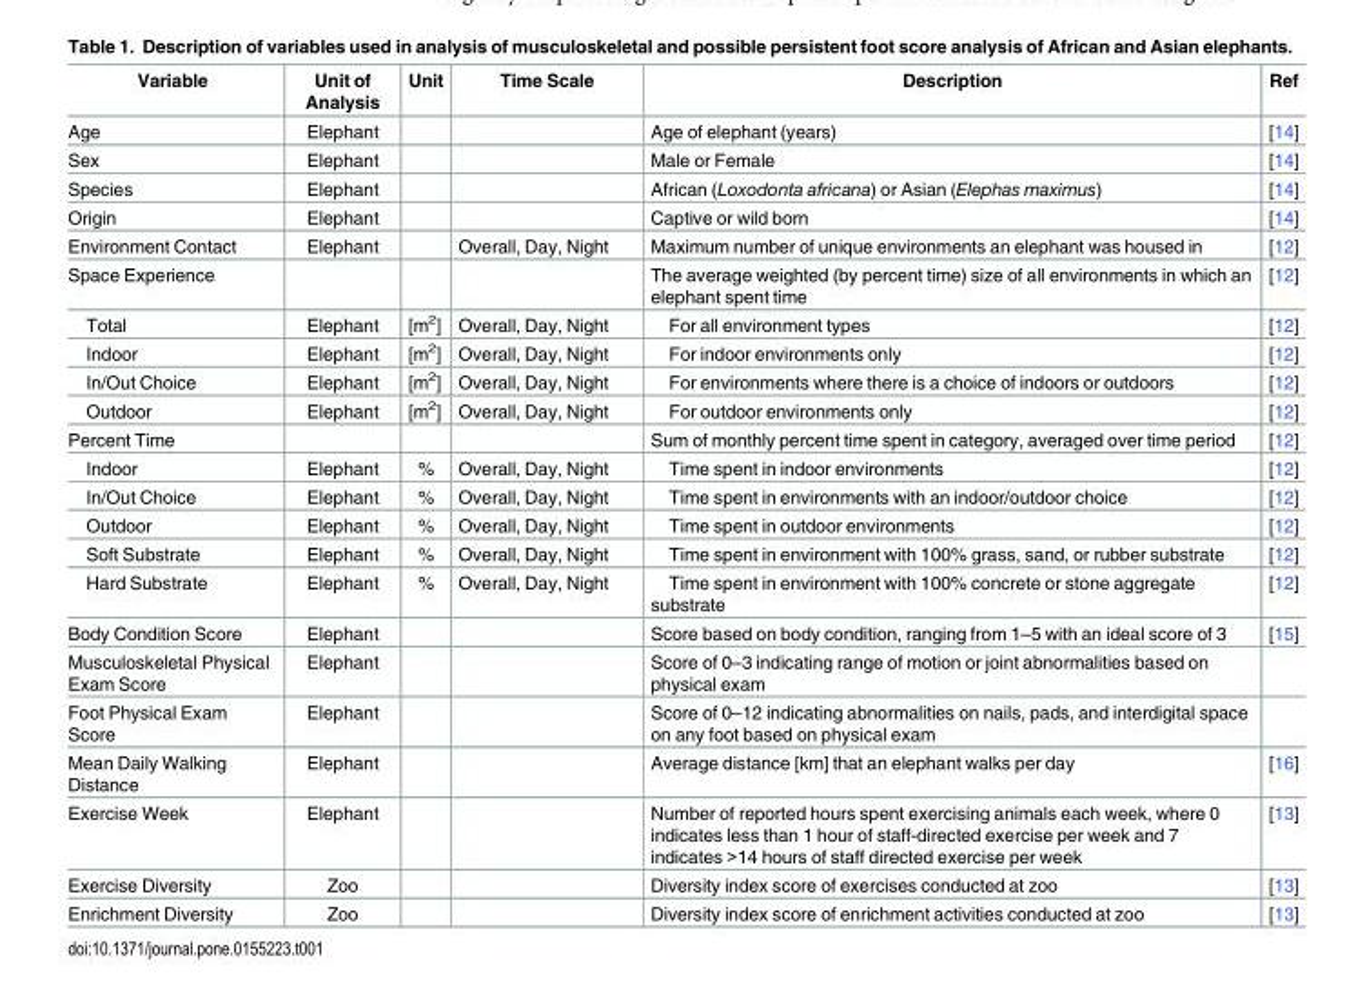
<table><thead><tr><td>Variable</td><td>Unit of Analysis</td><td>Unit</td><td>Time Scale</td><td>Description</td><td>Ref</td></tr></thead><tbody><tr><td>Age</td><td>Elephant</td><td></td><td></td><td>Age of elephant (years)</td><td>[14]</td></tr><tr><td>Sex</td><td>Elephant</td><td></td><td></td><td>Male or Female</td><td>[14]</td></tr><tr><td>Species</td><td>Elephant</td><td></td><td></td><td>African (Loxodonta africana) or Asian (Elephas maximus)</td><td>[14]</td></tr><tr><td>Origin</td><td>Elephant</td><td></td><td></td><td>Captive or wild born</td><td>[14]</td></tr><tr><td>Environment Contact</td><td>Elephant</td><td></td><td>Overall, Day, Night</td><td>Maximum number of unique environments an elephant was housed in</td><td>[12]</td></tr><tr><td>Space Experience</td><td></td><td></td><td></td><td>The average weighted (by percent time) size of all environments in which an elephant spent time</td><td>[12]</td></tr><tr><td>Total</td><td>Elephant</td><td>[m<sup>2</sup>]</td><td>Overall, Day, Night</td><td>For all environment types</td><td>[12]</td></tr><tr><td>Indoor</td><td>Elephant</td><td>[m<sup>2</sup>]</td><td>Overall, Day, Night</td><td>For indoor environments only</td><td>[12]</td></tr><tr><td>In/Out Choice</td><td>Elephant</td><td>[m<sup>2</sup>]</td><td>Overall, Day, Night</td><td>For environments where there is a choice of indoors or outdoors</td><td>[12]</td></tr><tr><td>Outdoor</td><td>Elephant</td><td>[m<sup>2</sup>]</td><td>Overall, Day, Night</td><td>For outdoor environments only</td><td>[12]</td></tr><tr><td>Percent Time</td><td></td><td></td><td></td><td>Sum of monthly percent time spent in category, averaged over time period</td><td>[12]</td></tr><tr><td>Indoor</td><td>Elephant</td><td>%</td><td>Overall, Day, Night</td><td>Time spent in indoor environments</td><td>[12]</td></tr><tr><td>In/Out Choice</td><td>Elephant</td><td>%</td><td>Overall, Day, Night</td><td>Time spent in environments with an indoor/outdoor choice</td><td>[12]</td></tr><tr><td>Outdoor</td><td>Elephant</td><td>%</td><td>Overall, Day, Night</td><td>Time spent in outdoor environments</td><td>[12]</td></tr><tr><td>Soft Substrate</td><td>Elephant</td><td>%</td><td>Overall, Day, Night</td><td>Time spent in environment with 100% grass, sand, or rubber substrate</td><td>[12]</td></tr><tr><td>Hard Substrate</td><td>Elephant</td><td>%</td><td>Overall, Day, Night</td><td>Time spent in environment with 100% concrete or stone aggregate substrate</td><td>[12]</td></tr><tr><td>Body Condition Score</td><td>Elephant</td><td></td><td></td><td>Score based on body condition, ranging from 1–5 with an ideal score of 3</td><td>[15]</td></tr><tr><td>Musculoskeletal Physical Exam Score</td><td>Elephant</td><td></td><td></td><td>Score of 0–3 indicating range of motion or joint abnormalities based on physical exam</td><td></td></tr><tr><td>Foot Physical Exam Score</td><td>Elephant</td><td></td><td></td><td>Score of 0–12 indicating abnormalities on nails, pads, and interdigital space on any foot based on physical exam</td><td></td></tr><tr><td>Mean Daily Walking Distance</td><td>Elephant</td><td></td><td></td><td>Average distance [km] that an elephant walks per day</td><td>[16]</td></tr><tr><td>Exercise Week</td><td>Elephant</td><td></td><td></td><td>Number of reported hours spent exercising animals each week, where 0 indicates less than 1 hour of staff-directed exercise per week and 7 indicates &gt;14 hours of staff directed exercise per week</td><td>[13]</td></tr><tr><td>Exercise Diversity</td><td>Zoo</td><td></td><td></td><td>Diversity index score of exercises conducted at zoo</td><td>[13]</td></tr><tr><td>Enrichment Diversity</td><td>Zoo</td><td></td><td></td><td>Diversity index score of enrichment activities conducted at zoo</td><td>[13]</td></tr></tbody></table>